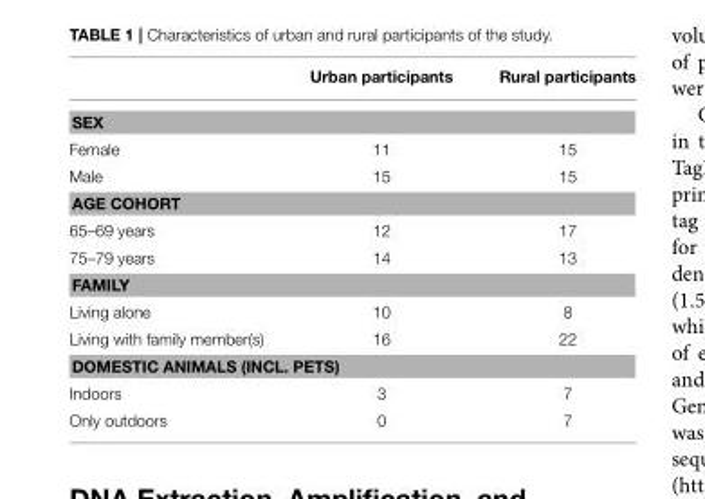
<table><thead><tr><td></td><td>Urban participants</td><td>Rural participants</td></tr></thead><tbody><tr><td colspan="3">SEX</td></tr><tr><td>Female</td><td>11</td><td>15</td></tr><tr><td>Male</td><td>15</td><td>15</td></tr><tr><td colspan="3">AGE COHORT</td></tr><tr><td>65–69 years</td><td>12</td><td>17</td></tr><tr><td>75–79 years</td><td>14</td><td>13</td></tr><tr><td colspan="3">FAMILY</td></tr><tr><td>Living alone</td><td>10</td><td>8</td></tr><tr><td>Living with family member(s)</td><td>16</td><td>22</td></tr><tr><td colspan="3">DOMESTIC ANIMALS (INCL. PETS)</td></tr><tr><td>Indoors</td><td>3</td><td>7</td></tr><tr><td>Only outdoors</td><td>0</td><td>7</td></tr></tbody></table>